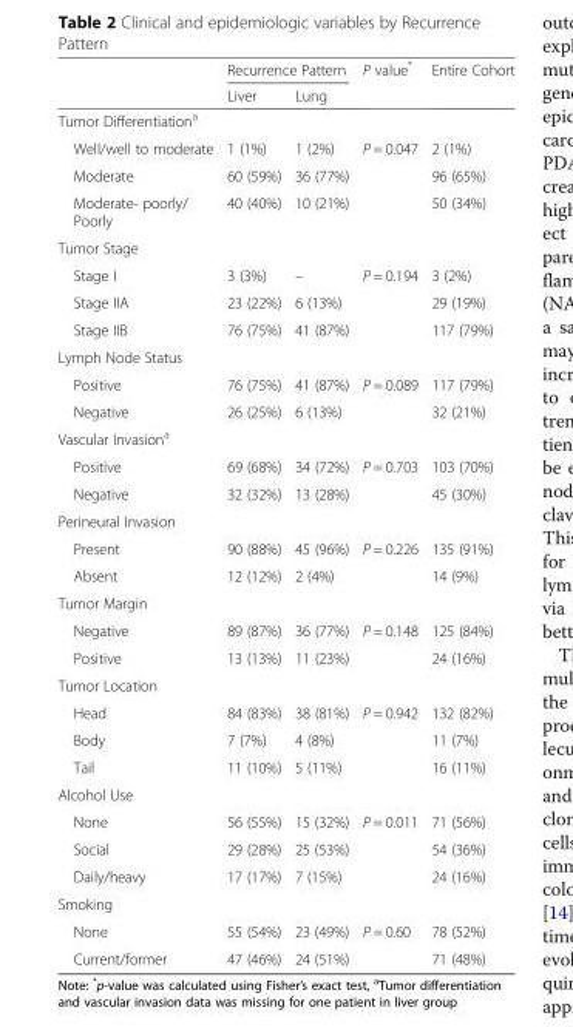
<table><thead><tr><td rowspan="2"></td><td colspan="2">Recurrence Pattern</td><td rowspan="2">P value*</td><td rowspan="2">Entire Cohort</td></tr><tr><td>Liver</td><td>Lung</td></tr></thead><tbody><tr><td colspan="5">Tumor Differentiation<sup>a</sup></td></tr><tr><td>Well/well to moderate</td><td>1 (1%)</td><td>1 (2%)</td><td rowspan="3">P = 0.047</td><td>2 (1%)</td></tr><tr><td>Moderate</td><td>60 (59%)</td><td>36 (77%)</td><td>96 (65%)</td></tr><tr><td>Moderate- poorly/ Poorly</td><td>40 (40%)</td><td>10 (21%)</td><td>50 (34%)</td></tr><tr><td colspan="5">Tumor Stage</td></tr><tr><td>Stage I</td><td>3 (3%)</td><td>–</td><td rowspan="3">P = 0.194</td><td>3 (2%)</td></tr><tr><td>Stage IIA</td><td>23 (22%)</td><td>6 (13%)</td><td>29 (19%)</td></tr><tr><td>Stage IIB</td><td>76 (75%)</td><td>41 (87%)</td><td>117 (79%)</td></tr><tr><td colspan="5">Lymph Node Status</td></tr><tr><td>Positive</td><td>76 (75%)</td><td>41 (87%)</td><td rowspan="2">P = 0.089</td><td>117 (79%)</td></tr><tr><td>Negative</td><td>26 (25%)</td><td>6 (13%)</td><td>32 (21%)</td></tr><tr><td colspan="5">Vascular Invasion<sup>a</sup></td></tr><tr><td>Positive</td><td>69 (68%)</td><td>34 (72%)</td><td rowspan="2">P = 0.703</td><td>103 (70%)</td></tr><tr><td>Negative</td><td>32 (32%)</td><td>13 (28%)</td><td>45 (30%)</td></tr><tr><td colspan="5">Perineural Invasion</td></tr><tr><td>Present</td><td>90 (88%)</td><td>45 (96%)</td><td rowspan="2">P = 0.226</td><td>135 (91%)</td></tr><tr><td>Absent</td><td>12 (12%)</td><td>2 (4%)</td><td>14 (9%)</td></tr><tr><td colspan="5">Tumor Margin</td></tr><tr><td>Negative</td><td>89 (87%)</td><td>36 (77%)</td><td rowspan="2">P = 0.148</td><td>125 (84%)</td></tr><tr><td>Positive</td><td>13 (13%)</td><td>11 (23%)</td><td>24 (16%)</td></tr><tr><td colspan="5">Tumor Location</td></tr><tr><td>Head</td><td>84 (83%)</td><td>38 (81%)</td><td rowspan="3">P = 0.942</td><td>132 (82%)</td></tr><tr><td>Body</td><td>7 (7%)</td><td>4 (8%)</td><td>11 (7%)</td></tr><tr><td>Tail</td><td>11 (10%)</td><td>5 (11%)</td><td>16 (11%)</td></tr><tr><td colspan="5">Alcohol Use</td></tr><tr><td>None</td><td>56 (55%)</td><td>15 (32%)</td><td rowspan="3">P = 0.011</td><td>71 (56%)</td></tr><tr><td>Social</td><td>29 (28%)</td><td>25 (53%)</td><td>54 (36%)</td></tr><tr><td>Daily/heavy</td><td>17 (17%)</td><td>7 (15%)</td><td>24 (16%)</td></tr><tr><td colspan="5">Smoking</td></tr><tr><td>None</td><td>55 (54%)</td><td>23 (49%)</td><td rowspan="2">P = 0.60</td><td>78 (52%)</td></tr><tr><td>Current/former</td><td>47 (46%)</td><td>24 (51%)</td><td>71 (48%)</td></tr></tbody></table>